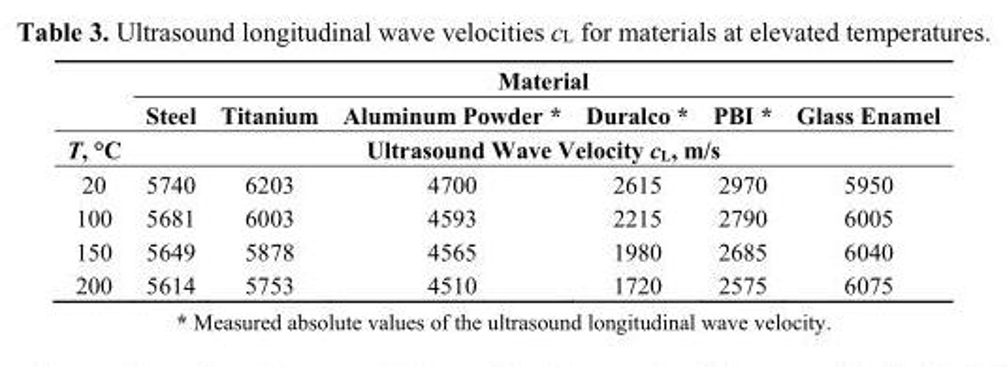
<table><thead><tr><td rowspan="3">T, °C</td><td colspan="6">Material</td></tr><tr><td>Steel</td><td>Titanium</td><td>Aluminum Powder *</td><td>Duralco *</td><td>PBI *</td><td>Glass Enamel</td></tr><tr><td colspan="6">Ultrasound Wave Velocity c<sub>L</sub>, m/s</td></tr></thead><tbody><tr><td>20</td><td>5740</td><td>6203</td><td>4700</td><td>2615</td><td>2970</td><td>5950</td></tr><tr><td>100</td><td>5681</td><td>6003</td><td>4593</td><td>2215</td><td>2790</td><td>6005</td></tr><tr><td>150</td><td>5649</td><td>5878</td><td>4565</td><td>1980</td><td>2685</td><td>6040</td></tr><tr><td>200</td><td>5614</td><td>5753</td><td>4510</td><td>1720</td><td>2575</td><td>6075</td></tr></tbody></table>